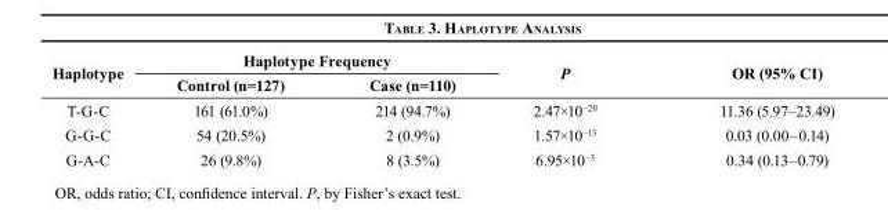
<table><thead><tr><td rowspan="2">Haplotype</td><td colspan="2">Haplotype Frequency</td><td rowspan="2">P</td><td rowspan="2">OR (95% CI)</td></tr><tr><td>Control (n=127)</td><td>Case (n=110)</td></tr></thead><tbody><tr><td>T-G-C</td><td>161 (61.0%)</td><td>214 (94.7%)</td><td>2.47×10<sup>−20</sup></td><td>11.36 (5.97–23.49)</td></tr><tr><td>G-G-C</td><td>54 (20.5%)</td><td>2 (0.9%)</td><td>1.57×10<sup>−13</sup></td><td>0.03 (0.00–0.14)</td></tr><tr><td>G-A-C</td><td>26 (9.8%)</td><td>8 (3.5%)</td><td>6.95×10<sup>−3</sup></td><td>0.34 (0.13–0.79)</td></tr></tbody></table>